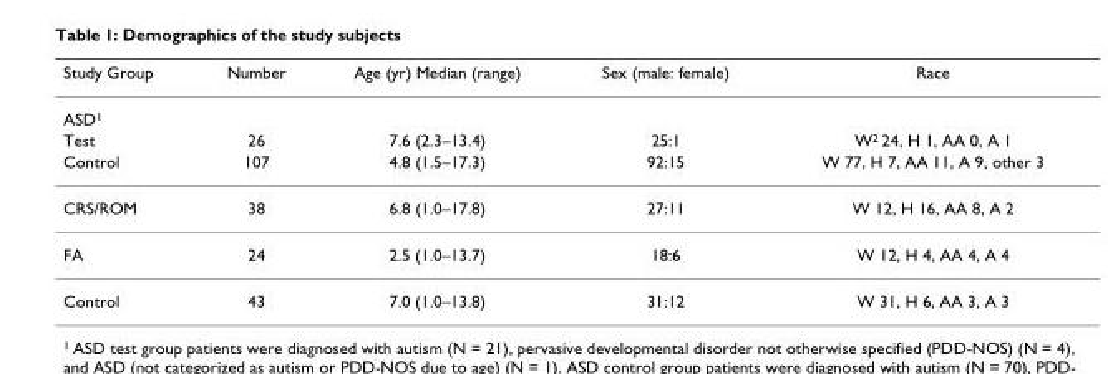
<table><thead><tr><td>Study Group</td><td>Number</td><td>Age (yr) Median (range)</td><td>Sex (male: female)</td><td>Race</td></tr></thead><tbody><tr><td colspan="5">ASD<sup>1</sup></td></tr><tr><td>Test</td><td>26</td><td>7.6 (2.3–13.4)</td><td>25:1</td><td>W<sup>2</sup> 24, H 1, AA 0, A 1</td></tr><tr><td>Control</td><td>107</td><td>4.8 (1.5–17.3)</td><td>92:15</td><td>W 77, H 7, AA 11, A 9, other 3</td></tr><tr><td>CRS/ROM</td><td>38</td><td>6.8 (1.0–17.8)</td><td>27:11</td><td>W 12, H 16, AA 8, A 2</td></tr><tr><td>FA</td><td>24</td><td>2.5 (1.0–13.7)</td><td>18:6</td><td>W 12, H 4, AA 4, A 4</td></tr><tr><td>Control</td><td>43</td><td>7.0 (1.0–13.8)</td><td>31:12</td><td>W 31, H 6, AA 3, A 3</td></tr></tbody></table>